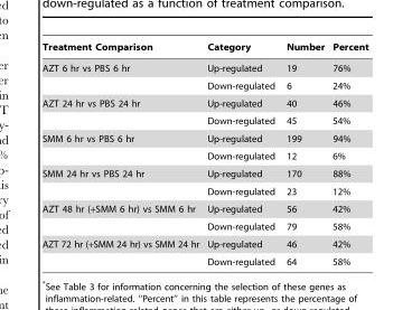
<table><thead><tr><td>Treatment Comparison</td><td>Category</td><td>Number</td><td>Percent</td></tr></thead><tbody><tr><td rowspan="2">AZT 6 hr vs PBS 6 hr</td><td>Up-regulated</td><td>19</td><td>76%</td></tr><tr><td>Down-regulated</td><td>6</td><td>24%</td></tr><tr><td rowspan="2">AZT 24 hr vs PBS 24 hr</td><td>Up-regulated</td><td>40</td><td>46%</td></tr><tr><td>Down-regulated</td><td>45</td><td>54%</td></tr><tr><td rowspan="2">SMM 6 hr vs PBS 6 hr</td><td>Up-regulated</td><td>199</td><td>94%</td></tr><tr><td>Down-regulated</td><td>12</td><td>6%</td></tr><tr><td rowspan="2">SMM 24 hr vs PBS 24 hr</td><td>Up-regulated</td><td>170</td><td>88%</td></tr><tr><td>Down-regulated</td><td>23</td><td>12%</td></tr><tr><td rowspan="2">AZT 48 hr (+SMM 6 hr) vs SMM 6 hr</td><td>Up-regulated</td><td>56</td><td>42%</td></tr><tr><td>Down-regulated</td><td>79</td><td>58%</td></tr><tr><td rowspan="2">AZT 72 hr (+SMM 24 hr) vs SMM 24 hr</td><td>Up-regulated</td><td>46</td><td>42%</td></tr><tr><td>Down-regulated</td><td>64</td><td>58%</td></tr></tbody></table>